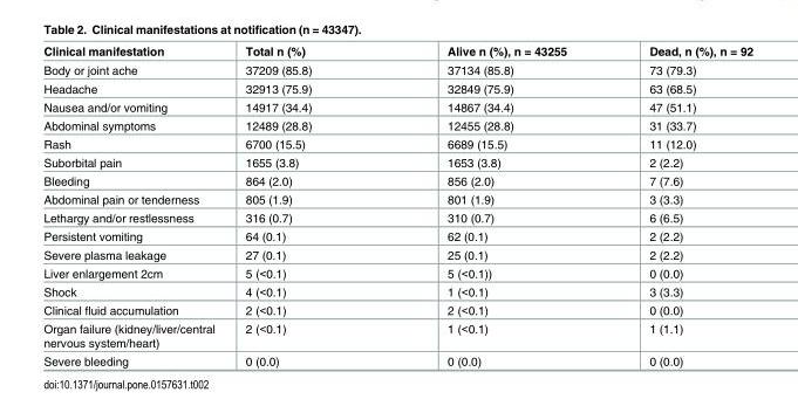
<table><thead><tr><td>Clinical manifestation</td><td>Total n (%)</td><td>Alive n (%), n = 43255</td><td>Dead, n (%), n = 92</td></tr></thead><tbody><tr><td>Body or joint ache</td><td>37209 (85.8)</td><td>37134 (85.8)</td><td>73 (79.3)</td></tr><tr><td>Headache</td><td>32913 (75.9)</td><td>32849 (75.9)</td><td>63 (68.5)</td></tr><tr><td>Nausea and/or vomiting</td><td>14917 (34.4)</td><td>14867 (34.4)</td><td>47 (51.1)</td></tr><tr><td>Abdominal symptoms</td><td>12489 (28.8)</td><td>12455 (28.8)</td><td>31 (33.7)</td></tr><tr><td>Rash</td><td>6700 (15.5)</td><td>6689 (15.5)</td><td>11 (12.0)</td></tr><tr><td>Suborbital pain</td><td>1655 (3.8)</td><td>1653 (3.8)</td><td>2 (2.2)</td></tr><tr><td>Bleeding</td><td>864 (2.0)</td><td>856 (2.0)</td><td>7 (7.6)</td></tr><tr><td>Abdominal pain or tenderness</td><td>805 (1.9)</td><td>801 (1.9)</td><td>3 (3.3)</td></tr><tr><td>Lethargy and/or restlessness</td><td>316 (0.7)</td><td>310 (0.7)</td><td>6 (6.5)</td></tr><tr><td>Persistent vomiting</td><td>64 (0.1)</td><td>62 (0.1)</td><td>2 (2.2)</td></tr><tr><td>Severe plasma leakage</td><td>27 (0.1)</td><td>25 (0.1)</td><td>2 (2.2)</td></tr><tr><td>Liver enlargement 2cm</td><td>5 (&lt;0.1)</td><td>5 (&lt;0.1))</td><td>0 (0.0)</td></tr><tr><td>Shock</td><td>4 (&lt;0.1)</td><td>1 (&lt;0.1)</td><td>3 (3.3)</td></tr><tr><td>Clinical fluid accumulation</td><td>2 (&lt;0.1)</td><td>2 (&lt;0.1)</td><td>0 (0.0)</td></tr><tr><td>Organ failure (kidney/liver/central nervous system/heart)</td><td>2 (&lt;0.1)</td><td>1 (&lt;0.1)</td><td>1 (1.1)</td></tr><tr><td>Severe bleeding</td><td>0 (0.0)</td><td>0 (0.0)</td><td>0 (0.0)</td></tr></tbody></table>